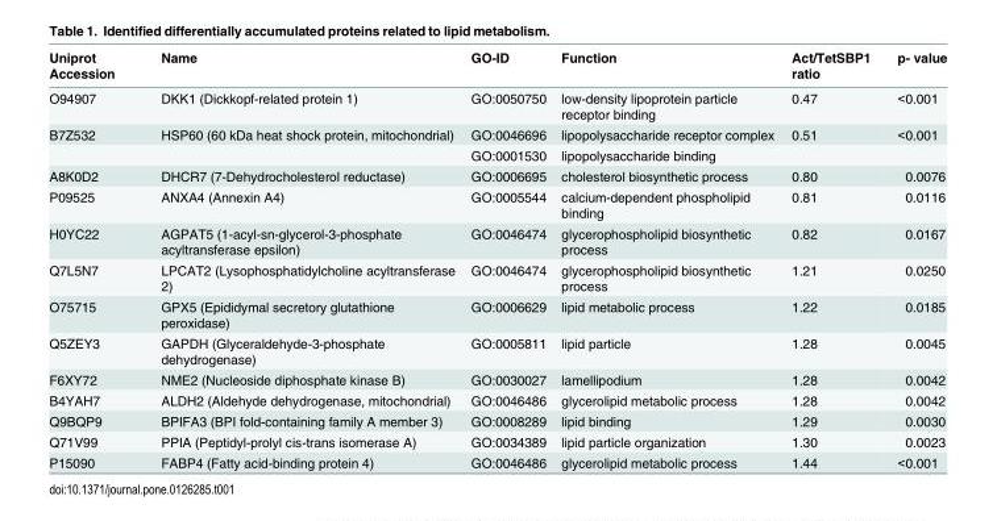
<table><thead><tr><td>Uniprot Accession</td><td>Name</td><td>GO-ID</td><td>Function</td><td>Act/TetSBP1 ratio</td><td>p- value</td></tr></thead><tbody><tr><td>O94907</td><td>DKK1 (Dickkopf-related protein 1)</td><td>GO:0050750</td><td>low-density lipoprotein particle receptor binding</td><td>0.47</td><td>&lt;0.001</td></tr><tr><td rowspan="2">B7Z532</td><td>HSP60 (60 kDa heat shock protein, mitochondrial)</td><td>GO:0046696</td><td>lipopolysaccharide receptor complex</td><td>0.51</td><td>&lt;0.001</td></tr><tr><td></td><td>GO:0001530</td><td>lipopolysaccharide binding</td><td></td><td></td></tr><tr><td>A8K0D2</td><td>DHCR7 (7-Dehydrocholesterol reductase)</td><td>GO:0006695</td><td>cholesterol biosynthetic process</td><td>0.80</td><td>0.0076</td></tr><tr><td>P09525</td><td>ANXA4 (Annexin A4)</td><td>GO:0005544</td><td>calcium-dependent phospholipid binding</td><td>0.81</td><td>0.0116</td></tr><tr><td>H0YC22</td><td>AGPAT5 (1-acyl-sn-glycerol-3-phosphate acyltransferase epsilon)</td><td>GO:0046474</td><td>glycerophospholipid biosynthetic process</td><td>0.82</td><td>0.0167</td></tr><tr><td>Q7L5N7</td><td>LPCAT2 (Lysophosphatidylcholine acyltransferase 2)</td><td>GO:0046474</td><td>glycerophospholipid biosynthetic process</td><td>1.21</td><td>0.0250</td></tr><tr><td>O75715</td><td>GPX5 (Epididymal secretory glutathione peroxidase)</td><td>GO:0006629</td><td>lipid metabolic process</td><td>1.22</td><td>0.0185</td></tr><tr><td>Q5ZEY3</td><td>GAPDH (Glyceraldehyde-3-phosphate dehydrogenase)</td><td>GO:0005811</td><td>lipid particle</td><td>1.28</td><td>0.0045</td></tr><tr><td>F6XY72</td><td>NME2 (Nucleoside diphosphate kinase B)</td><td>GO:0030027</td><td>lamellipodium</td><td>1.28</td><td>0.0042</td></tr><tr><td>B4YAH7</td><td>ALDH2 (Aldehyde dehydrogenase, mitochondrial)</td><td>GO:0046486</td><td>glycerolipid metabolic process</td><td>1.28</td><td>0.0042</td></tr><tr><td>Q9BQP9</td><td>BPIFA3 (BPI fold-containing family A member 3)</td><td>GO:0008289</td><td>lipid binding</td><td>1.29</td><td>0.0030</td></tr><tr><td>Q71V99</td><td>PPIA (Peptidyl-prolyl cis-trans isomerase A)</td><td>GO:0034389</td><td>lipid particle organization</td><td>1.30</td><td>0.0023</td></tr><tr><td>P15090</td><td>FABP4 (Fatty acid-binding protein 4)</td><td>GO:0046486</td><td>glycerolipid metabolic process</td><td>1.44</td><td>&lt;0.001</td></tr></tbody></table>